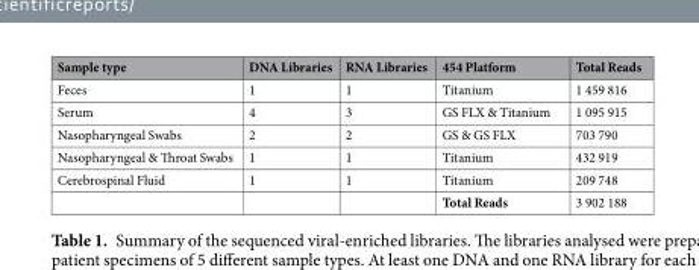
<table><thead><tr><td>Sample type</td><td>DNA Libraries</td><td>RNA Libraries</td><td>454 Platform</td><td>Total Reads</td></tr></thead><tbody><tr><td>Feces</td><td>1</td><td>1</td><td>Titanium</td><td>1 459 816</td></tr><tr><td>Serum</td><td>4</td><td>3</td><td>GS FLX &amp; Titanium</td><td>1 095 915</td></tr><tr><td>Nasopharyngeal Swabs</td><td>2</td><td>2</td><td>GS &amp; GS FLX</td><td>703 790</td></tr><tr><td>Nasopharyngeal &amp; Throat Swabs</td><td>1</td><td>1</td><td>Titanium</td><td>432 919</td></tr><tr><td rowspan="2">Cerebrospinal Fluid</td><td>1</td><td>1</td><td>Titanium</td><td>209 748</td></tr><tr><td></td><td></td><td>Total Reads</td><td>3 902 188</td></tr></tbody></table>